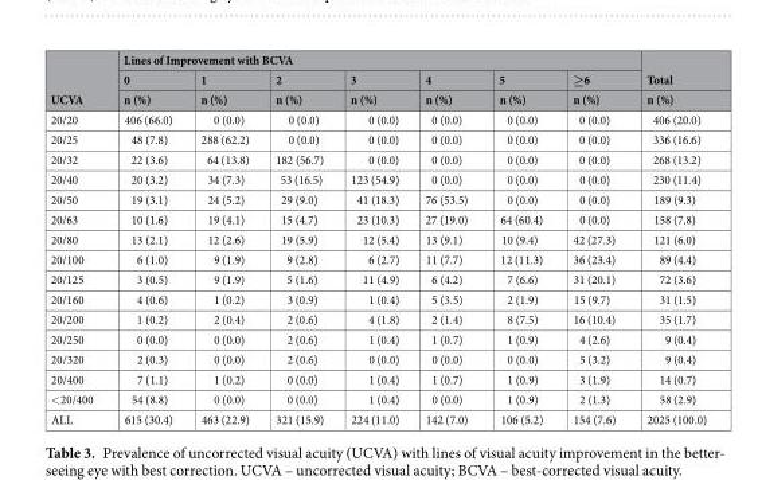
<table><thead><tr><td rowspan="3">UCVA</td><td colspan="7">Lines of Improvement with BCVA</td><td rowspan="3">Total n (%)</td></tr><tr><td rowspan="2">0 n (%)</td><td rowspan="2">1 n (%)</td><td rowspan="2">2 n (%)</td><td rowspan="2">3 n (%)</td><td rowspan="2">4 n (%)</td><td rowspan="2">5 n (%)</td><td rowspan="2">≥6 n (%)</td></tr><tr></tr></thead><tbody><tr><td>20/20</td><td>406 (66.0)</td><td>0 (0.0)</td><td>0 (0.0)</td><td>0 (0.0)</td><td>0 (0.0)</td><td>0 (0.0)</td><td>0 (0.0)</td><td>406 (20.0)</td></tr><tr><td>20/25</td><td>48 (7.8)</td><td>288 (62.2)</td><td>0 (0.0)</td><td>0 (0.0)</td><td>0 (0.0)</td><td>0 (0.0)</td><td>0 (0.0)</td><td>336 (16.6)</td></tr><tr><td>20/32</td><td>22 (3.6)</td><td>64 (13.8)</td><td>182 (56.7)</td><td>0 (0.0)</td><td>0 (0.0)</td><td>0 (0.0)</td><td>0 (0.0)</td><td>268 (13.2)</td></tr><tr><td>20/40</td><td>20 (3.2)</td><td>34 (7.3)</td><td>53 (16.5)</td><td>123 (54.9)</td><td>0 (0.0)</td><td>0 (0.0)</td><td>0 (0.0)</td><td>230 (11.4)</td></tr><tr><td>20/50</td><td>19 (3.1)</td><td>24 (5.2)</td><td>29 (9.0)</td><td>41 (18.3)</td><td>76 (53.5)</td><td>0 (0.0)</td><td>0 (0.0)</td><td>189 (9.3)</td></tr><tr><td>20/63</td><td>10 (1.6)</td><td>19 (4.1)</td><td>15 (4.7)</td><td>23 (10.3)</td><td>27 (19.0)</td><td>64 (60.4)</td><td>0 (0.0)</td><td>158 (7.8)</td></tr><tr><td>20/80</td><td>13 (2.1)</td><td>12 (2.6)</td><td>19 (5.9)</td><td>12 (5.4)</td><td>13 (9.1)</td><td>10 (9.4)</td><td>42 (27.3)</td><td>121 (6.0)</td></tr><tr><td>20/100</td><td>6 (1.0)</td><td>9 (1.9)</td><td>9 (2.8)</td><td>6 (2.7)</td><td>11 (7.7)</td><td>12 (11.3)</td><td>36 (23.4)</td><td>89 (4.4)</td></tr><tr><td>20/125</td><td>3 (0.5)</td><td>9 (1.9)</td><td>5 (1.6)</td><td>11 (4.9)</td><td>6 (4.2)</td><td>7 (6.6)</td><td>31 (20.1)</td><td>72 (3.6)</td></tr><tr><td>20/160</td><td>4 (0.6)</td><td>1 (0.2)</td><td>3 (0.9)</td><td>1 (0.4)</td><td>5 (3.5)</td><td>2 (1.9)</td><td>15 (9.7)</td><td>31 (1.5)</td></tr><tr><td>20/200</td><td>1 (0.2)</td><td>2 (0.4)</td><td>2 (0.6)</td><td>4 (1.8)</td><td>2 (1.4)</td><td>8 (7.5)</td><td>16 (10.4)</td><td>35 (1.7)</td></tr><tr><td>20/250</td><td>0 (0.0)</td><td>0 (0.0)</td><td>2 (0.6)</td><td>1 (0.4)</td><td>1 (0.7)</td><td>1 (0.9)</td><td>4 (2.6)</td><td>9 (0.4)</td></tr><tr><td>20/320</td><td>2 (0.3)</td><td>0 (0.0)</td><td>2 (0.6)</td><td>0 (0.0)</td><td>0 (0.0)</td><td>0 (0.0)</td><td>5 (3.2)</td><td>9 (0.4)</td></tr><tr><td>20/400</td><td>7 (1.1)</td><td>1 (0.2)</td><td>0 (0.0)</td><td>1 (0.4)</td><td>1 (0.7)</td><td>1 (0.9)</td><td>3 (1.9)</td><td>14 (0.7)</td></tr><tr><td>&lt;20/400</td><td>54 (8.8)</td><td>0 (0.0)</td><td>0 (0.0)</td><td>1 (0.4)</td><td>0 (0.0)</td><td>1 (0.9)</td><td>2 (1.3)</td><td>58 (2.9)</td></tr><tr><td>ALL</td><td>615 (30.4)</td><td>463 (22.9)</td><td>321 (15.9)</td><td>224 (11.0)</td><td>142 (7.0)</td><td>106 (5.2)</td><td>154 (7.6)</td><td>2025 (100.0)</td></tr></tbody></table>